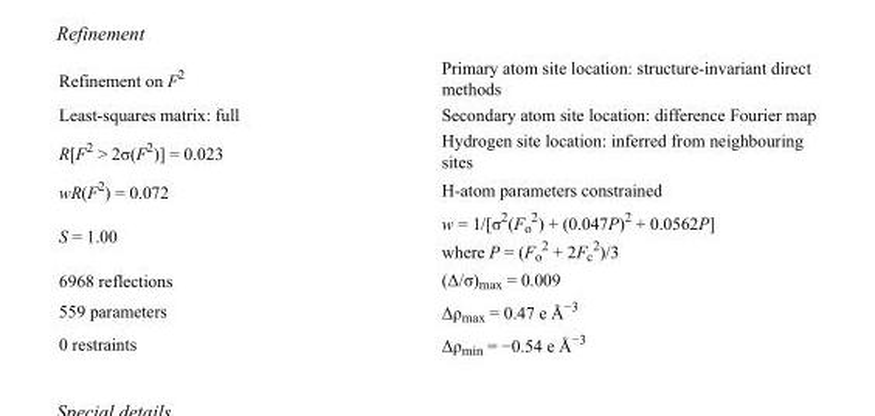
<table><tbody><tr><td>Refinement on F<sup>2</sup></td><td>Primary atom site location: structure-invariant direct methods</td></tr><tr><td>Least-squares matrix: full</td><td>Secondary atom site location: difference Fourier map</td></tr><tr><td>R[F<sup>2</sup> &gt; 2σ(F<sup>2</sup>)] = 0.023</td><td>Hydrogen site location: inferred from neighbouring sites</td></tr><tr><td>wR(F<sup>2</sup>) = 0.072</td><td>H-atom parameters constrained</td></tr><tr><td>S = 1.00</td><td>w = 1/[σ<sup>2</sup>(F<sub>o</sub> <sup>2</sup>) + (0.047P)<sup>2</sup> + 0.0562P] where P = (F<sub>o</sub> <sup>2</sup> + 2F<sub>c</sub> <sup>2</sup>)/3</td></tr><tr><td>6968 reflections</td><td>(Δ/σ)<sub>max</sub> = 0.009</td></tr><tr><td>559 parameters</td><td>Δρ<sub>max</sub> = 0.47 e Å<sup>−3</sup></td></tr><tr><td>0 restraints</td><td>Δρ<sub>min</sub> = −0.54 e Å<sup>−3</sup></td></tr></tbody></table>